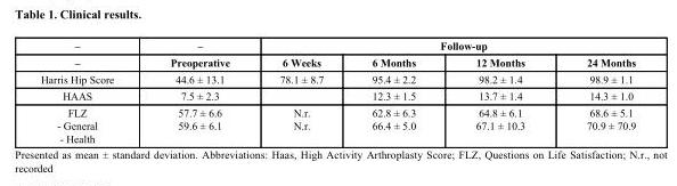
<table><thead><tr><td rowspan="2">– –</td><td rowspan="2">– Preoperative</td><td colspan="4">Follow-up</td></tr><tr><td>6 Weeks</td><td>6 Months</td><td>12 Months</td><td>24 Months</td></tr></thead><tbody><tr><td>Harris Hip Score</td><td>44.6 ± 13.1</td><td>78.1 ± 8.7</td><td>95.4 ± 2.2</td><td>98.2 ± 1.4</td><td>98.9 ± 1.1</td></tr><tr><td>HAAS</td><td>7.5 ± 2.3</td><td></td><td>12.3 ± 1.5</td><td>13.7 ± 1.4</td><td>14.3 ± 1.0</td></tr><tr><td>FLZ - General - Health</td><td>57.7 ± 6.6 59.6 ± 6.1</td><td>N.r. N.r.</td><td>62.8 ± 6.3 66.4 ± 5.0</td><td>64.8 ± 6.1 67.1 ± 10.3</td><td>68.6 ± 5.1 70.9 ± 70.9</td></tr></tbody></table>